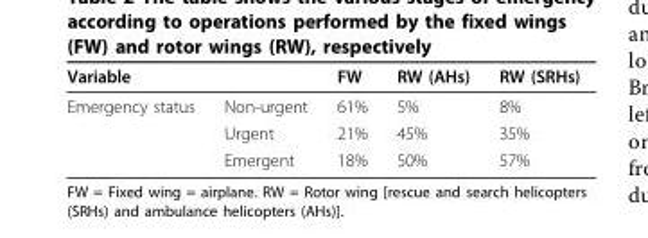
<table><thead><tr><td>Variable</td><td></td><td>FW</td><td>RW (AHs)</td><td>RW (SRHs)</td></tr></thead><tbody><tr><td rowspan="3">Emergency status</td><td>Non-urgent</td><td>61%</td><td>5%</td><td>8%</td></tr><tr><td>Urgent</td><td>21%</td><td>45%</td><td>35%</td></tr><tr><td>Emergent</td><td>18%</td><td>50%</td><td>57%</td></tr></tbody></table>